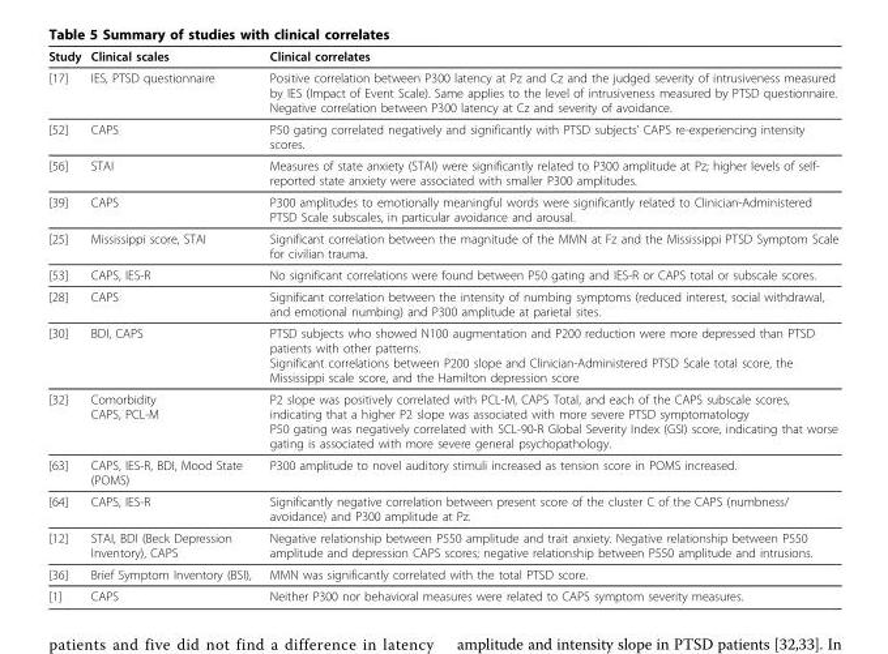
<table><thead><tr><td>Study</td><td>Clinical scales</td><td>Clinical correlates</td></tr></thead><tbody><tr><td>[17]</td><td>IES, PTSD questionnaire</td><td>Positive correlation between P300 latency at Pz and Cz and the judged severity of intrusiveness measured by IES (Impact of Event Scale). Same applies to the level of intrusiveness measured by PTSD questionnaire. Negative correlation between P300 latency at Cz and severity of avoidance.</td></tr><tr><td>[52]</td><td>CAPS</td><td>P50 gating correlated negatively and significantly with PTSD subjects’ CAPS re-experiencing intensity scores.</td></tr><tr><td>[56]</td><td>STAI</td><td>Measures of state anxiety (STAI) were significantly related to P300 amplitude at Pz; higher levels of self- reported state anxiety were associated with smaller P300 amplitudes.</td></tr><tr><td>[39]</td><td>CAPS</td><td>P300 amplitudes to emotionally meaningful words were significantly related to Clinician-Administered PTSD Scale subscales, in particular avoidance and arousal.</td></tr><tr><td>[25]</td><td>Mississippi score, STAI</td><td>Significant correlation between the magnitude of the MMN at Fz and the Mississippi PTSD Symptom Scale for civilian trauma.</td></tr><tr><td>[53]</td><td>CAPS, IES-R</td><td>No significant correlations were found between P50 gating and IES-R or CAPS total or subscale scores.</td></tr><tr><td>[28]</td><td>CAPS</td><td>Significant correlation between the intensity of numbing symptoms (reduced interest, social withdrawal, and emotional numbing) and P300 amplitude at parietal sites.</td></tr><tr><td>[30]</td><td>BDI, CAPS</td><td>PTSD subjects who showed N100 augmentation and P200 reduction were more depressed than PTSD patients with other patterns. Significant correlations between P200 slope and Clinician-Administered PTSD Scale total score, the Mississippi scale score, and the Hamilton depression score</td></tr><tr><td>[32]</td><td>Comorbidity CAPS, PCL-M</td><td>P2 slope was positively correlated with PCL-M, CAPS Total, and each of the CAPS subscale scores, indicating that a higher P2 slope was associated with more severe PTSD symptomatology P50 gating was negatively correlated with SCL-90-R Global Severity Index (GSI) score, indicating that worse gating is associated with more severe general psychopathology.</td></tr><tr><td>[63]</td><td>CAPS, IES-R, BDI, Mood State (POMS)</td><td>P300 amplitude to novel auditory stimuli increased as tension score in POMS increased.</td></tr><tr><td>[64]</td><td>CAPS, IES-R</td><td>Significantly negative correlation between present score of the cluster C of the CAPS (numbness/ avoidance) and P300 amplitude at Pz.</td></tr><tr><td>[12]</td><td>STAI, BDI (Beck Depression Inventory), CAPS</td><td>Negative relationship between P550 amplitude and trait anxiety. Negative relationship between P550 amplitude and depression CAPS scores; negative relationship between P550 amplitude and intrusions.</td></tr><tr><td>[36]</td><td>Brief Symptom Inventory (BSI),</td><td>MMN was significantly correlated with the total PTSD score.</td></tr><tr><td>[1]</td><td>CAPS</td><td>Neither P300 nor behavioral measures were related to CAPS symptom severity measures.</td></tr></tbody></table>